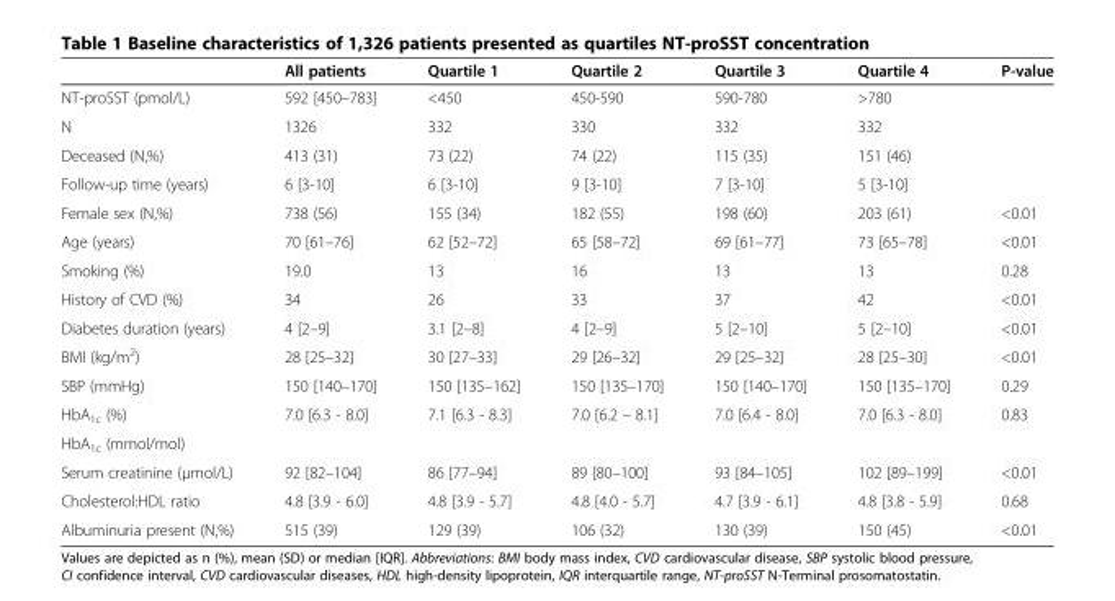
<table><thead><tr><td></td><td>All patients</td><td>Quartile 1</td><td>Quartile 2</td><td>Quartile 3</td><td>Quartile 4</td><td>P-value</td></tr></thead><tbody><tr><td>NT-proSST (pmol/L)</td><td>592 [450–783]</td><td>&lt;450</td><td>450-590</td><td>590-780</td><td>&gt;780</td><td></td></tr><tr><td>N</td><td>1326</td><td>332</td><td>330</td><td>332</td><td>332</td><td></td></tr><tr><td>Deceased (N,%)</td><td>413 (31)</td><td>73 (22)</td><td>74 (22)</td><td>115 (35)</td><td>151 (46)</td><td></td></tr><tr><td>Follow-up time (years)</td><td>6 [3-10]</td><td>6 [3-10]</td><td>9 [3-10]</td><td>7 [3-10]</td><td>5 [3-10]</td><td></td></tr><tr><td>Female sex (N,%)</td><td>738 (56)</td><td>155 (34)</td><td>182 (55)</td><td>198 (60)</td><td>203 (61)</td><td>&lt;0.01</td></tr><tr><td>Age (years)</td><td>70 [61–76]</td><td>62 [52–72]</td><td>65 [58–72]</td><td>69 [61–77]</td><td>73 [65–78]</td><td>&lt;0.01</td></tr><tr><td>Smoking (%)</td><td>19.0</td><td>13</td><td>16</td><td>13</td><td>13</td><td>0.28</td></tr><tr><td>History of CVD (%)</td><td>34</td><td>26</td><td>33</td><td>37</td><td>42</td><td>&lt;0.01</td></tr><tr><td>Diabetes duration (years)</td><td>4 [2–9]</td><td>3.1 [2–8]</td><td>4 [2–9]</td><td>5 [2–10]</td><td>5 [2–10]</td><td>&lt;0.01</td></tr><tr><td>BMI (kg/m<sup>2</sup>)</td><td>28 [25–32]</td><td>30 [27–33]</td><td>29 [26–32]</td><td>29 [25–32]</td><td>28 [25–30]</td><td>&lt;0.01</td></tr><tr><td>SBP (mmHg)</td><td>150 [140–170]</td><td>150 [135–162]</td><td>150 [135–170]</td><td>150 [140–170]</td><td>150 [135–170]</td><td>0.29</td></tr><tr><td>HbA<sub>1c</sub> (%)</td><td>7.0 [6.3 - 8.0]</td><td>7.1 [6.3 - 8.3]</td><td>7.0 [6.2 – 8.1]</td><td>7.0 [6.4 - 8.0]</td><td>7.0 [6.3 - 8.0]</td><td>0.83</td></tr><tr><td colspan="7">HbA<sub>1c</sub> (mmol/mol)</td></tr><tr><td>Serum creatinine (μmol/L)</td><td>92 [82–104]</td><td>86 [77–94]</td><td>89 [80–100]</td><td>93 [84–105]</td><td>102 [89–199]</td><td>&lt;0.01</td></tr><tr><td>Cholesterol:HDL ratio</td><td>4.8 [3.9 - 6.0]</td><td>4.8 [3.9 - 5.7]</td><td>4.8 [4.0 - 5.7]</td><td>4.7 [3.9 - 6.1]</td><td>4.8 [3.8 - 5.9]</td><td>0.68</td></tr><tr><td>Albuminuria present (N,%)</td><td>515 (39)</td><td>129 (39)</td><td>106 (32)</td><td>130 (39)</td><td>150 (45)</td><td>&lt;0.01</td></tr></tbody></table>